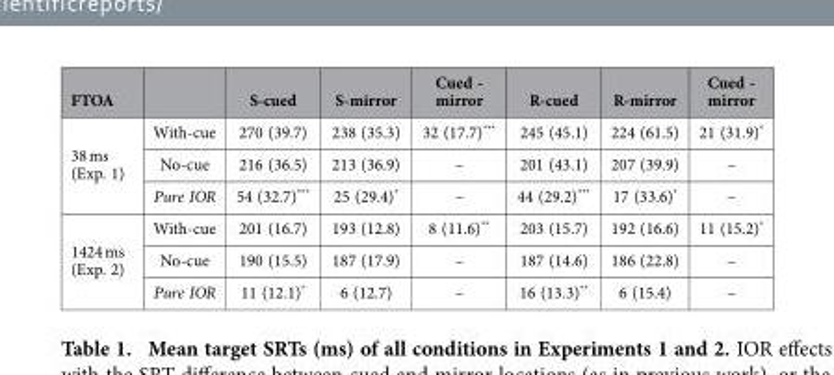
<table><thead><tr><td>FTOA</td><td></td><td>S-cued</td><td>S-mirror</td><td>Cued - mirror</td><td>R-cued</td><td>R-mirror</td><td>Cued - mirror</td></tr></thead><tbody><tr><td rowspan="3">38 ms (Exp. 1)</td><td>With-cue</td><td>270 (39.7)</td><td>238 (35.3)</td><td>32 (17.7)***</td><td>245 (45.1)</td><td>224 (61.5)</td><td>21 (31.9)*</td></tr><tr><td>No-cue</td><td>216 (36.5)</td><td>213 (36.9)</td><td>–</td><td>201 (43.1)</td><td>207 (39.9)</td><td>–</td></tr><tr><td>Pure IOR</td><td>54 (32.7)***</td><td>25 (29.4)*</td><td>–</td><td>44 (29.2)***</td><td>17 (33.6)*</td><td>–</td></tr><tr><td rowspan="3">1424 ms (Exp. 2)</td><td>With-cue</td><td>201 (16.7)</td><td>193 (12.8)</td><td>8 (11.6)**</td><td>203 (15.7)</td><td>192 (16.6)</td><td>11 (15.2)*</td></tr><tr><td>No-cue</td><td>190 (15.5)</td><td>187 (17.9)</td><td>–</td><td>187 (14.6)</td><td>186 (22.8)</td><td>–</td></tr><tr><td>Pure IOR</td><td>11 (12.1)*</td><td>6 (12.7)</td><td>–</td><td>16 (13.3)**</td><td>6 (15.4)</td><td>–</td></tr></tbody></table>